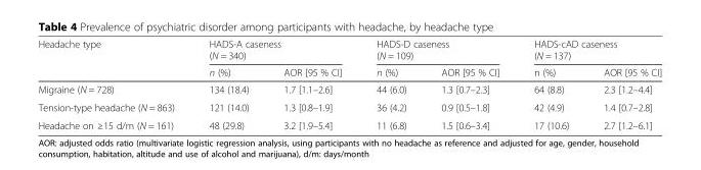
<table><thead><tr><td rowspan="2">Headache type</td><td colspan="2">HADS-A caseness (N = 340)</td><td colspan="2">HADS-D caseness (N = 109)</td><td colspan="2">HADS-cAD caseness (N = 137)</td></tr><tr><td>n (%)</td><td>AOR [95 % CI]</td><td>n (%)</td><td>AOR [95 % CI]</td><td>n (%)</td><td>AOR [95 % CI]</td></tr></thead><tbody><tr><td>Migraine (N = 728)</td><td>134 (18.4)</td><td>1.7 [1.1–2.6]</td><td>44 (6.0)</td><td>1.3 [0.7–2.3]</td><td>64 (8.8)</td><td>2.3 [1.2–4.4]</td></tr><tr><td>Tension-type headache (N = 863)</td><td>121 (14.0)</td><td>1.3 [0.8–1.9]</td><td>36 (4.2)</td><td>0.9 [0.5–1.8]</td><td>42 (4.9)</td><td>1.4 [0.7–2.8]</td></tr><tr><td>Headache on ≥15 d/m (N = 161)</td><td>48 (29.8)</td><td>3.2 [1.9–5.4]</td><td>11 (6.8)</td><td>1.5 [0.6–3.4]</td><td>17 (10.6)</td><td>2.7 [1.2–6.1]</td></tr></tbody></table>